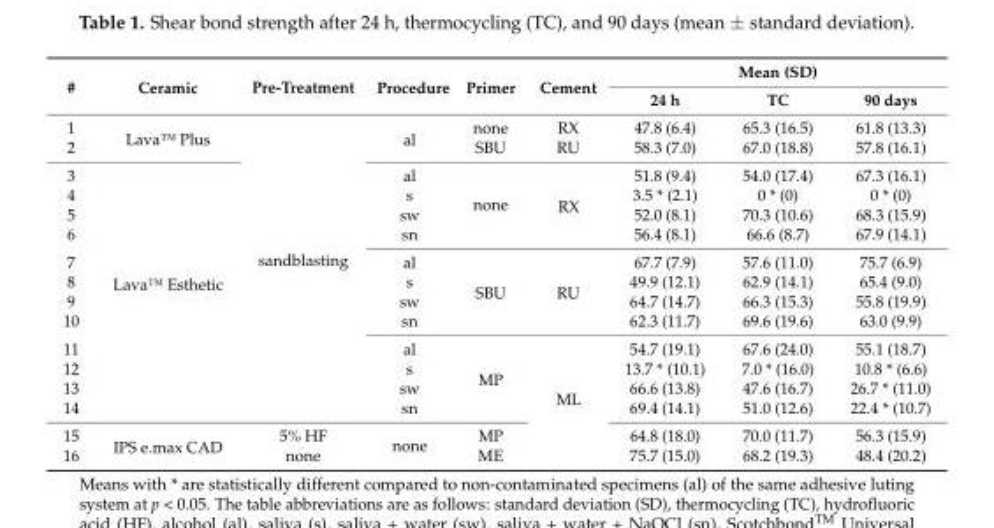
<table><thead><tr><td rowspan="2">#</td><td rowspan="2">Ceramic</td><td rowspan="2">Pre-Treatment</td><td rowspan="2">Procedure</td><td rowspan="2">Primer</td><td rowspan="2">Cement</td><td colspan="3">Mean (SD)</td></tr><tr><td>24 h</td><td>TC</td><td>90 days</td></tr></thead><tbody><tr><td>1</td><td rowspan="2">Lava™ Plus</td><td rowspan="14">sandblasting</td><td rowspan="2">al</td><td>none</td><td>RX</td><td>47.8 (6.4)</td><td>65.3 (16.5)</td><td>61.8 (13.3)</td></tr><tr><td>2</td><td>SBU</td><td>RU</td><td>58.3 (7.0)</td><td>67.0 (18.8)</td><td>57.8 (16.1)</td></tr><tr><td>3</td><td rowspan="12">Lava™ Esthetic</td><td>al</td><td rowspan="4">none</td><td rowspan="4">RX</td><td>51.8 (9.4)</td><td>54.0 (17.4)</td><td>67.3 (16.1)</td></tr><tr><td>4</td><td>s</td><td>3.5 * (2.1)</td><td>0 * (0)</td><td>0 * (0)</td></tr><tr><td>5</td><td>sw</td><td>52.0 (8.1)</td><td>70.3 (10.6)</td><td>68.3 (15.9)</td></tr><tr><td>6</td><td>sn</td><td>56.4 (8.1)</td><td>66.6 (8.7)</td><td>67.9 (14.1)</td></tr><tr><td>7</td><td>al</td><td rowspan="4">SBU</td><td rowspan="4">RU</td><td>67.7 (7.9)</td><td>57.6 (11.0)</td><td>75.7 (6.9)</td></tr><tr><td>8</td><td>s</td><td>49.9 (12.1)</td><td>62.9 (14.1)</td><td>65.4 (9.0)</td></tr><tr><td>9</td><td>sw</td><td>64.7 (14.7)</td><td>66.3 (15.3)</td><td>55.8 (19.9)</td></tr><tr><td>10</td><td>sn</td><td>62.3 (11.7)</td><td>69.6 (19.6)</td><td>63.0 (9.9)</td></tr><tr><td>11</td><td>al</td><td rowspan="4">MP</td><td rowspan="6">ML</td><td>54.7 (19.1)</td><td>67.6 (24.0)</td><td>55.1 (18.7)</td></tr><tr><td>12</td><td>s</td><td>13.7 * (10.1)</td><td>7.0 * (16.0)</td><td>10.8 * (6.6)</td></tr><tr><td>13</td><td>sw</td><td>66.6 (13.8)</td><td>47.6 (16.7)</td><td>26.7 * (11.0)</td></tr><tr><td>14</td><td>sn</td><td>69.4 (14.1)</td><td>51.0 (12.6)</td><td>22.4 * (10.7)</td></tr><tr><td>15</td><td rowspan="2">IPS e.max CAD</td><td>5% HF</td><td rowspan="2">none</td><td>MP</td><td>64.8 (18.0)</td><td>70.0 (11.7)</td><td>56.3 (15.9)</td></tr><tr><td>16</td><td>none</td><td>ME</td><td>75.7 (15.0)</td><td>68.2 (19.3)</td><td>48.4 (20.2)</td></tr></tbody></table>